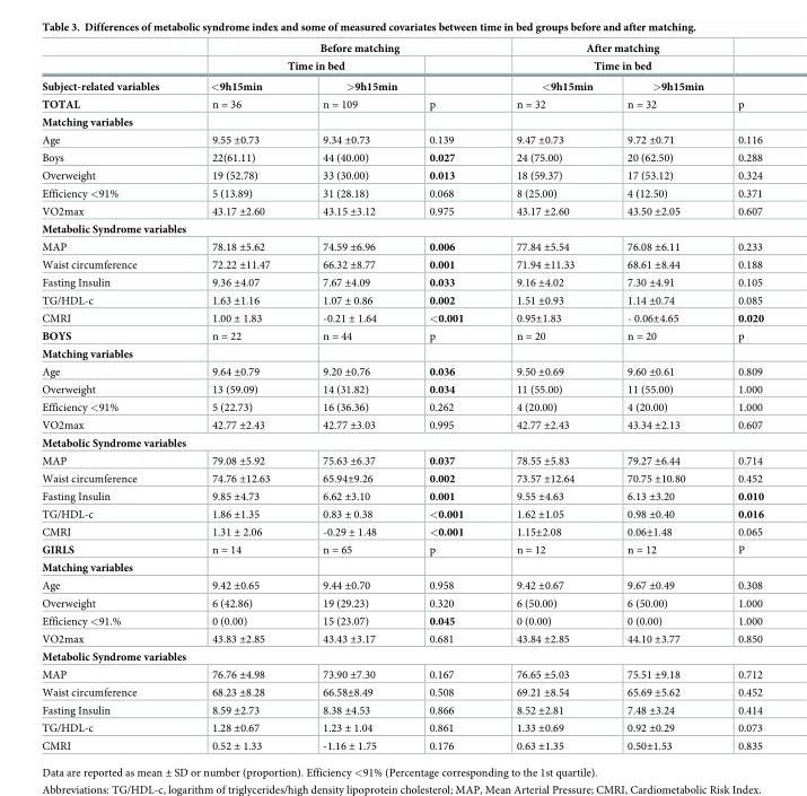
<table><thead><tr><td rowspan="3">Subject-related variables</td><td colspan="3">Before matching</td><td rowspan="2" colspan="2">After matching Time in bed</td><td rowspan="3"></td></tr><tr><td colspan="2">Time in bed</td><td rowspan="2"></td></tr><tr><td>&lt;9h15min</td><td>&gt;9h15min</td><td>&lt;9h15min</td><td>&gt;9h15min</td></tr></thead><tbody><tr><td>TOTAL</td><td>n = 36</td><td>n = 109</td><td>p</td><td>n = 32</td><td>n = 32</td><td>p</td></tr><tr><td colspan="7">Matching variables</td></tr><tr><td>Age</td><td>9.55 ±0.73</td><td>9.34 ±0.73</td><td>0.139</td><td>9.47 ±0.73</td><td>9.72 ±0.71</td><td>0.116</td></tr><tr><td>Boys</td><td>22(61.11)</td><td>44 (40.00)</td><td>0.027</td><td>24 (75.00)</td><td>20 (62.50)</td><td>0.288</td></tr><tr><td>Overweight</td><td>19 (52.78)</td><td>33 (30.00)</td><td>0.013</td><td>18 (59.37)</td><td>17 (53.12)</td><td>0.324</td></tr><tr><td>Efficiency &lt;91%</td><td>5 (13.89)</td><td>31 (28.18)</td><td>0.068</td><td>8 (25.00)</td><td>4 (12.50)</td><td>0.371</td></tr><tr><td>VO2max</td><td>43.17 ±2.60</td><td>43.15 ±3.12</td><td>0.975</td><td>43.17 ±2.60</td><td>43.50 ±2.05</td><td>0.607</td></tr><tr><td colspan="7">Metabolic Syndrome variables</td></tr><tr><td>MAP</td><td>78.18 ±5.62</td><td>74.59 ±6.96</td><td>0.006</td><td>77.84 ±5.54</td><td>76.08 ±6.11</td><td>0.233</td></tr><tr><td>Waist circumference</td><td>72.22 ±11.47</td><td>66.32 ±8.77</td><td>0.001</td><td>71.94 ±11.33</td><td>68.61 ±8.44</td><td>0.188</td></tr><tr><td>Fasting Insulin</td><td>9.36 ±4.07</td><td>7.67 ±4.09</td><td>0.033</td><td>9.16 ±4.02</td><td>7.30 ±4.91</td><td>0.105</td></tr><tr><td>TG/HDL-c</td><td>1.63 ±1.16</td><td>1.07 ± 0.86</td><td>0.002</td><td>1.51 ±0.93</td><td>1.14 ±0.74</td><td>0.085</td></tr><tr><td>CMRI</td><td>1.00 ± 1.83</td><td>-0.21 ± 1.64</td><td>&lt;0.001</td><td>0.95±1.83</td><td>- 0.06±4.65</td><td>0.020</td></tr><tr><td>BOYS</td><td>n = 22</td><td>n = 44</td><td>p</td><td>n = 20</td><td>n = 20</td><td>p</td></tr><tr><td colspan="7">Matching variables</td></tr><tr><td>Age</td><td>9.64 ±0.79</td><td>9.20 ±0.76</td><td>0.036</td><td>9.50 ±0.69</td><td>9.60 ±0.61</td><td>0.809</td></tr><tr><td>Overweight</td><td>13 (59.09)</td><td>14 (31.82)</td><td>0.034</td><td>11 (55.00)</td><td>11 (55.00)</td><td>1.000</td></tr><tr><td>Efficiency &lt;91%</td><td>5 (22.73)</td><td>16 (36.36)</td><td>0.262</td><td>4 (20.00)</td><td>4 (20.00)</td><td>1.000</td></tr><tr><td>VO2max</td><td>42.77 ±2.43</td><td>42.77 ±3.03</td><td>0.995</td><td>42.77 ±2.43</td><td>43.34 ±2.13</td><td>0.607</td></tr><tr><td colspan="7">Metabolic Syndrome variables</td></tr><tr><td>MAP</td><td>79.08 ±5.92</td><td>75.63 ±6.37</td><td>0.037</td><td>78.55 ±5.83</td><td>79.27 ±6.44</td><td>0.714</td></tr><tr><td>Waist circumference</td><td>74.76 ±12.63</td><td>65.94±9.26</td><td>0.002</td><td>73.57 ±12.64</td><td>70.75 ±10.80</td><td>0.452</td></tr><tr><td>Fasting Insulin</td><td>9.85 ±4.73</td><td>6.62 ±3.10</td><td>0.001</td><td>9.55 ±4.63</td><td>6.13 ±3.20</td><td>0.010</td></tr><tr><td>TG/HDL-c</td><td>1.86 ±1.35</td><td>0.83 ± 0.38</td><td>&lt;0.001</td><td>1.62 ±1.05</td><td>0.98 ±0.40</td><td>0.016</td></tr><tr><td>CMRI</td><td>1.31 ± 2.06</td><td>-0.29 ± 1.48</td><td>&lt;0.001</td><td>1.15±2.08</td><td>0.06±1.48</td><td>0.065</td></tr><tr><td>GIRLS</td><td>n = 14</td><td>n = 65</td><td>p</td><td>n = 12</td><td>n = 12</td><td>P</td></tr><tr><td colspan="7">Matching variables</td></tr><tr><td>Age</td><td>9.42 ±0.65</td><td>9.44 ±0.70</td><td>0.958</td><td>9.42 ±0.67</td><td>9.67 ±0.49</td><td>0.308</td></tr><tr><td>Overweight</td><td>6 (42.86)</td><td>19 (29.23)</td><td>0.320</td><td>6 (50.00)</td><td>6 (50.00)</td><td>1.000</td></tr><tr><td>Efficiency &lt;91.%</td><td>0 (0.00)</td><td>15 (23.07)</td><td>0.045</td><td>0 (0.00)</td><td>0 (0.00)</td><td>1.000</td></tr><tr><td>VO2max</td><td>43.83 ±2.85</td><td>43.43 ±3.17</td><td>0.681</td><td>43.84 ±2.85</td><td>44.10 ±3.77</td><td>0.850</td></tr><tr><td colspan="7">Metabolic Syndrome variables</td></tr><tr><td>MAP</td><td>76.76 ±4.98</td><td>73.90 ±7.30</td><td>0.167</td><td>76.65 ±5.03</td><td>75.51 ±9.18</td><td>0.712</td></tr><tr><td>Waist circumference</td><td>68.23 ±8.28</td><td>66.58±8.49</td><td>0.508</td><td>69.21 ±8.54</td><td>65.69 ±5.62</td><td>0.452</td></tr><tr><td>Fasting Insulin</td><td>8.59 ±2.73</td><td>8.38 ±4.53</td><td>0.866</td><td>8.52 ±2.81</td><td>7.48 ±3.24</td><td>0.414</td></tr><tr><td>TG/HDL-c</td><td>1.28 ±0.67</td><td>1.23 ± 1.04</td><td>0.861</td><td>1.33 ±0.69</td><td>0.92 ±0.29</td><td>0.073</td></tr><tr><td>CMRI</td><td>0.52 ± 1.33</td><td>-1.16 ± 1.75</td><td>0.176</td><td>0.63 ±1.35</td><td>0.50±1.53</td><td>0.835</td></tr></tbody></table>